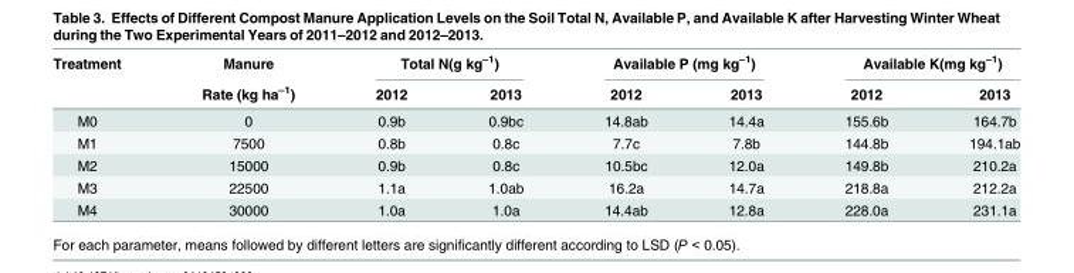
<table><thead><tr><td rowspan="2">Treatment</td><td rowspan="2">Manure Rate (kg ha<sup>–1</sup>)</td><td colspan="2">Total N(g kg<sup>–1</sup>)</td><td colspan="2">Available P (mg kg<sup>–1</sup>)</td><td colspan="2">Available K(mg kg<sup>–1</sup>)</td></tr><tr><td>2012</td><td>2013</td><td>2012</td><td>2013</td><td>2012</td><td>2013</td></tr></thead><tbody><tr><td>M0</td><td>0</td><td>0.9b</td><td>0.9bc</td><td>14.8ab</td><td>14.4a</td><td>155.6b</td><td>164.7b</td></tr><tr><td>M1</td><td>7500</td><td>0.8b</td><td>0.8c</td><td>7.7c</td><td>7.8b</td><td>144.8b</td><td>194.1ab</td></tr><tr><td>M2</td><td>15000</td><td>0.9b</td><td>0.8c</td><td>10.5bc</td><td>12.0a</td><td>149.8b</td><td>210.2a</td></tr><tr><td>M3</td><td>22500</td><td>1.1a</td><td>1.0ab</td><td>16.2a</td><td>14.7a</td><td>218.8a</td><td>212.2a</td></tr><tr><td>M4</td><td>30000</td><td>1.0a</td><td>1.0a</td><td>14.4ab</td><td>12.8a</td><td>228.0a</td><td>231.1a</td></tr></tbody></table>